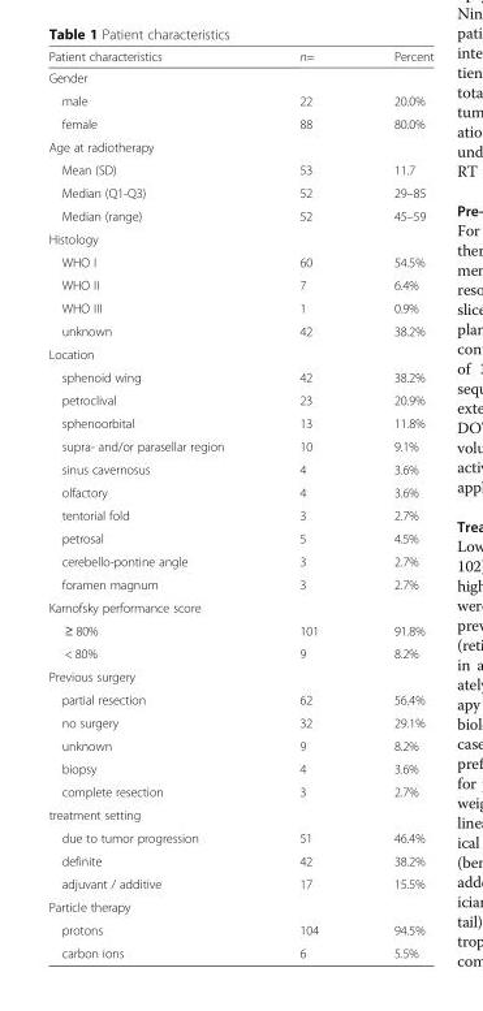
<table><thead><tr><td>Patient characteristics</td><td>n=</td><td>Percent</td></tr></thead><tbody><tr><td colspan="3">Gender</td></tr><tr><td>male</td><td>22</td><td>20.0%</td></tr><tr><td>female</td><td>88</td><td>80.0%</td></tr><tr><td colspan="3">Age at radiotherapy</td></tr><tr><td>Mean (SD)</td><td>53</td><td>11.7</td></tr><tr><td>Median (Q1-Q3)</td><td>52</td><td>29–85</td></tr><tr><td>Median (range)</td><td>52</td><td>45–59</td></tr><tr><td colspan="3">Histology</td></tr><tr><td>WHO I</td><td>60</td><td>54.5%</td></tr><tr><td>WHO II</td><td>7</td><td>6.4%</td></tr><tr><td>WHO III</td><td>1</td><td>0.9%</td></tr><tr><td>unknown</td><td>42</td><td>38.2%</td></tr><tr><td colspan="3">Location</td></tr><tr><td>sphenoid wing</td><td>42</td><td>38.2%</td></tr><tr><td>petroclival</td><td>23</td><td>20.9%</td></tr><tr><td>sphenoorbital</td><td>13</td><td>11.8%</td></tr><tr><td>supra- and/or parasellar region</td><td>10</td><td>9.1%</td></tr><tr><td>sinus cavernosus</td><td>4</td><td>3.6%</td></tr><tr><td>olfactory</td><td>4</td><td>3.6%</td></tr><tr><td>tentorial fold</td><td>3</td><td>2.7%</td></tr><tr><td>petrosal</td><td>5</td><td>4.5%</td></tr><tr><td>cerebello-pontine angle</td><td>3</td><td>2.7%</td></tr><tr><td>foramen magnum</td><td>3</td><td>2.7%</td></tr><tr><td colspan="3">Karnofsky performance score</td></tr><tr><td>≥ 80%</td><td>101</td><td>91.8%</td></tr><tr><td>&lt; 80%</td><td>9</td><td>8.2%</td></tr><tr><td colspan="3">Previous surgery</td></tr><tr><td>partial resection</td><td>62</td><td>56.4%</td></tr><tr><td>no surgery</td><td>32</td><td>29.1%</td></tr><tr><td>unknown</td><td>9</td><td>8.2%</td></tr><tr><td>biopsy</td><td>4</td><td>3.6%</td></tr><tr><td>complete resection</td><td>3</td><td>2.7%</td></tr><tr><td colspan="3">treatment setting</td></tr><tr><td>due to tumor progression</td><td>51</td><td>46.4%</td></tr><tr><td>definite</td><td>42</td><td>38.2%</td></tr><tr><td>adjuvant / additive</td><td>17</td><td>15.5%</td></tr><tr><td colspan="3">Particle therapy</td></tr><tr><td>protons</td><td>104</td><td>94.5%</td></tr><tr><td>carbon ions</td><td>6</td><td>5.5%</td></tr></tbody></table>